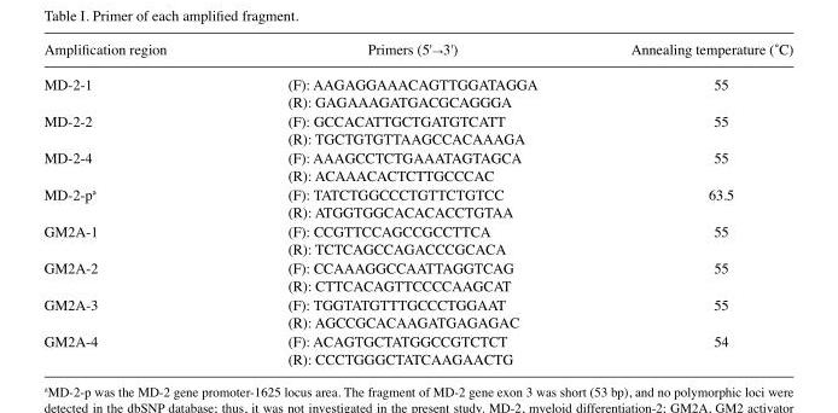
<table><thead><tr><td>Amplification region</td><td>Primers (5&#x27;→3&#x27;)</td><td>Annealing temperature (˚C)</td></tr></thead><tbody><tr><td>MD-2-1</td><td>(F): AAGAGGAAACAGTTGGATAGGA (R): GAGAAAGATGACGCAGGGA</td><td>55</td></tr><tr><td>MD-2-2</td><td>(F): GCCACATTGCTGATGTCATT (R): TGCTGTGTTAAGCCACAAAGA</td><td>55</td></tr><tr><td>MD-2-4</td><td>(F): AAAGCCTCTGAAATAGTAGCA (R): ACAAACACTCTTGCCCAC</td><td>55</td></tr><tr><td>MD-2-p<sup>a</sup></td><td>(F): TATCTGGCCCTGTTCTGTCC (R): ATGGTGGCACACACCTGTAA</td><td>63.5</td></tr><tr><td>GM2A-1</td><td>(F): CCGTTCCAGCCGCCTTCA (R): TCTCAGCCAGACCCGCACA</td><td>55</td></tr><tr><td>GM2A-2</td><td>(F): CCAAAGGCCAATTAGGTCAG (R): CTTCACAGTTCCCCAAGCAT</td><td>55</td></tr><tr><td>GM2A-3</td><td>(F): TGGTATGTTTGCCCTGGAAT (R): AGCCGCACAAGATGAGAGAC</td><td>55</td></tr><tr><td>GM2A-4</td><td>(F): ACAGTGCTATGGCCGTCTCT (R): CCCTGGGCTATCAAGAACTG</td><td>54</td></tr></tbody></table>